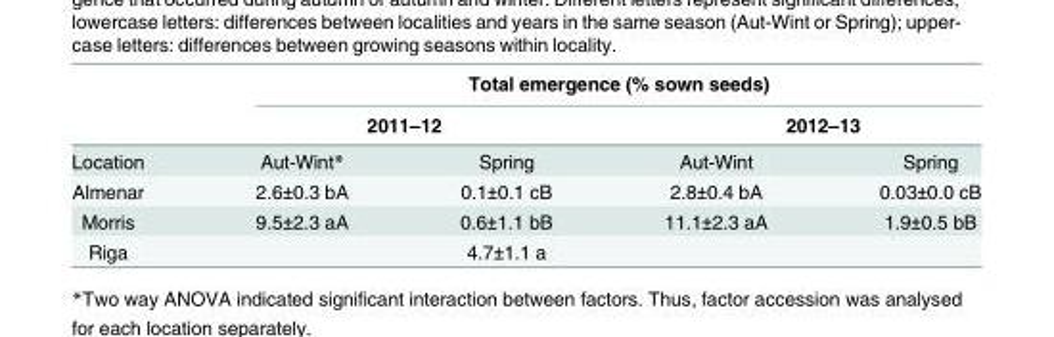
<table><thead><tr><td rowspan="3">Location</td><td colspan="4">Total emergence (% sown seeds)</td></tr><tr><td colspan="2">2011–12</td><td colspan="2">2012–13</td></tr><tr><td>Aut-Wint*</td><td>Spring</td><td>Aut-Wint</td><td>Spring</td></tr></thead><tbody><tr><td>Almenar</td><td>2.6±0.3 bA</td><td>0.1±0.1 cB</td><td>2.8±0.4 bA</td><td>0.03±0.0 cB</td></tr><tr><td>Morris</td><td>9.5±2.3 aA</td><td>0.6±1.1 bB</td><td>11.1±2.3 aA</td><td>1.9±0.5 bB</td></tr><tr><td>Riga</td><td></td><td>4.7±1.1 a</td><td></td><td></td></tr></tbody></table>